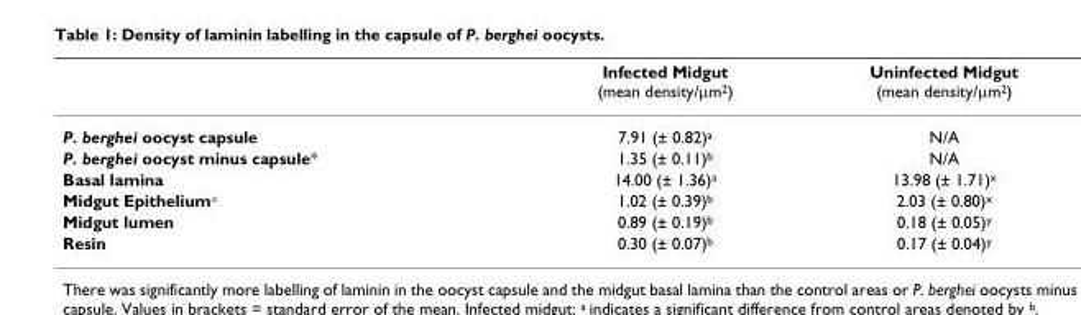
<table><thead><tr><td></td><td>Infected Midgut (mean density/μm<sup>2</sup>)</td><td>Uninfected Midgut (mean density/μm<sup>2</sup>)</td></tr></thead><tbody><tr><td>P. berghei oocyst capsule</td><td>7.91 (± 0.82)<sup>a</sup></td><td>N/A</td></tr><tr><td>P. berghei oocyst minus capsule*</td><td>1.35 (± 0.11)<sup>b</sup></td><td>N/A</td></tr><tr><td>Basal lamina</td><td>14.00 (± 1.36)<sup>a</sup></td><td>13.98 (± 1.71)<sup>x</sup></td></tr><tr><td>Midgut Epithelium<sup>≠</sup></td><td>1.02 (± 0.39)<sup>b</sup></td><td>2.03 (± 0.80)<sup>x</sup></td></tr><tr><td>Midgut lumen</td><td>0.89 (± 0.19)<sup>b</sup></td><td>0.18 (± 0.05)<sup>y</sup></td></tr><tr><td>Resin</td><td>0.30 (± 0.07)<sup>b</sup></td><td>0.17 (± 0.04)<sup>y</sup></td></tr></tbody></table>